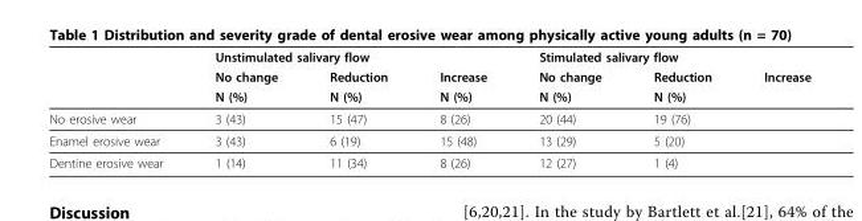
<table><thead><tr><td rowspan="3"></td><td colspan="3">Unstimulated salivary flow</td><td colspan="3">Stimulated salivary flow</td></tr><tr><td rowspan="2">No change N (%)</td><td rowspan="2">Reduction N (%)</td><td rowspan="2">Increase N (%)</td><td rowspan="2">No change N (%)</td><td rowspan="2">Reduction N (%)</td><td rowspan="2">Increase</td></tr><tr></tr></thead><tbody><tr><td>No erosive wear</td><td>3 (43)</td><td>15 (47)</td><td>8 (26)</td><td>20 (44)</td><td>19 (76)</td><td></td></tr><tr><td>Enamel erosive wear</td><td>3 (43)</td><td>6 (19)</td><td>15 (48)</td><td>13 (29)</td><td>5 (20)</td><td></td></tr><tr><td>Dentine erosive wear</td><td>1 (14)</td><td>11 (34)</td><td>8 (26)</td><td>12 (27)</td><td>1 (4)</td><td></td></tr></tbody></table>